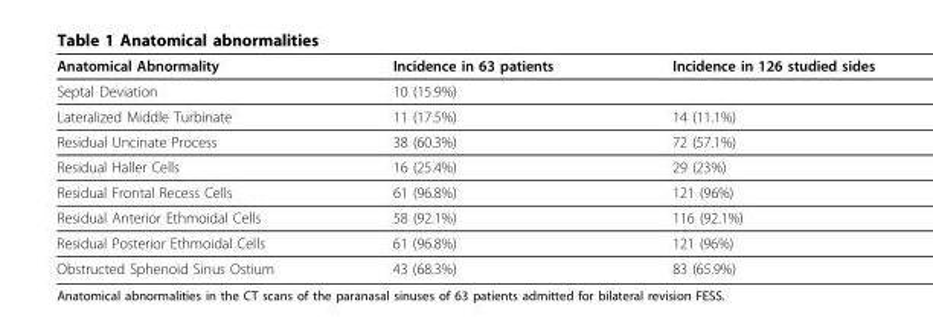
<table><thead><tr><td>Anatomical Abnormality</td><td>Incidence in 63 patients</td><td>Incidence in 126 studied sides</td></tr></thead><tbody><tr><td>Septal Deviation</td><td>10 (15.9%)</td><td></td></tr><tr><td>Lateralized Middle Turbinate</td><td>11 (17.5%)</td><td>14 (11.1%)</td></tr><tr><td>Residual Uncinate Process</td><td>38 (60.3%)</td><td>72 (57.1%)</td></tr><tr><td>Residual Haller Cells</td><td>16 (25.4%)</td><td>29 (23%)</td></tr><tr><td>Residual Frontal Recess Cells</td><td>61 (96.8%)</td><td>121 (96%)</td></tr><tr><td>Residual Anterior Ethmoidal Cells</td><td>58 (92.1%)</td><td>116 (92.1%)</td></tr><tr><td>Residual Posterior Ethmoidal Cells</td><td>61 (96.8%)</td><td>121 (96%)</td></tr><tr><td>Obstructed Sphenoid Sinus Ostium</td><td>43 (68.3%)</td><td>83 (65.9%)</td></tr></tbody></table>